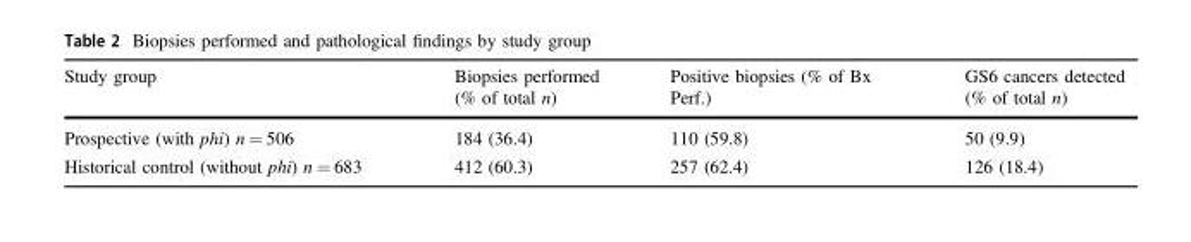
<table><thead><tr><td>Study group</td><td>Biopsies performed (% of total n)</td><td>Positive biopsies (% of Bx Perf.)</td><td>GS6 cancers detected (% of total n)</td></tr></thead><tbody><tr><td>Prospective (with phi) n = 506</td><td>184 (36.4)</td><td>110 (59.8)</td><td>50 (9.9)</td></tr><tr><td>Historical control (without phi) n = 683</td><td>412 (60.3)</td><td>257 (62.4)</td><td>126 (18.4)</td></tr></tbody></table>